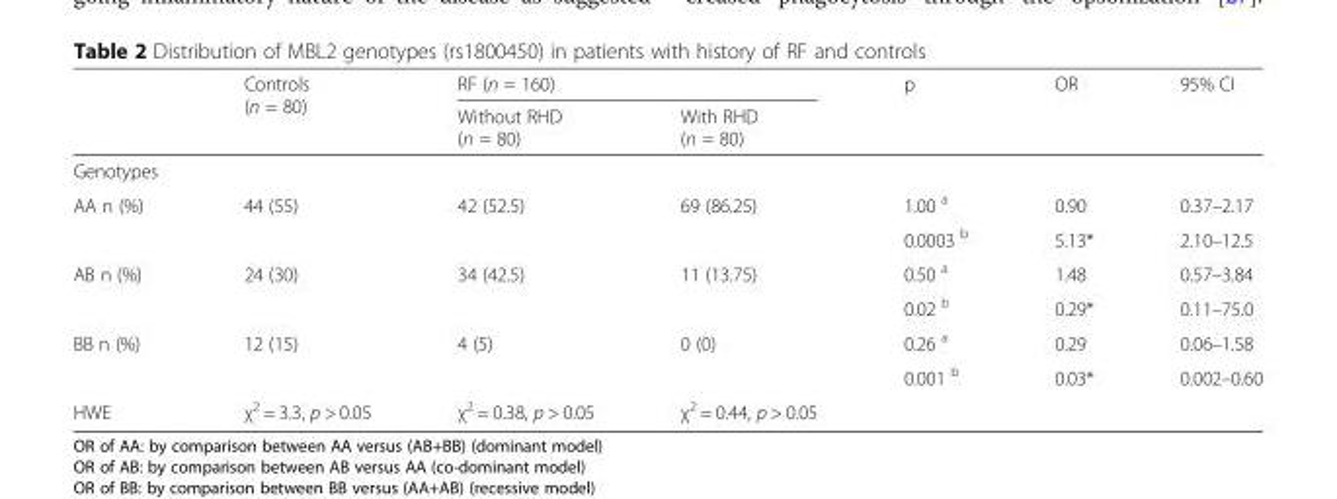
<table><thead><tr><td rowspan="2"></td><td rowspan="2">Controls (n = 80)</td><td colspan="2">RF (n = 160)</td><td rowspan="2">p</td><td rowspan="2">OR</td><td rowspan="2">95% CI</td></tr><tr><td>Without RHD (n = 80)</td><td>With RHD (n = 80)</td></tr></thead><tbody><tr><td colspan="7">Genotypes</td></tr><tr><td rowspan="2">AA n (%)</td><td rowspan="2">44 (55)</td><td rowspan="2">42 (52.5)</td><td rowspan="2">69 (86.25)</td><td>1.00 <sup>a</sup></td><td>0.90</td><td>0.37–2.17</td></tr><tr><td>0.0003 <sup>b</sup></td><td>5.13*</td><td>2.10–12.5</td></tr><tr><td rowspan="2">AB n (%)</td><td rowspan="2">24 (30)</td><td rowspan="2">34 (42.5)</td><td rowspan="2">11 (13.75)</td><td>0.50 <sup>a</sup></td><td>1.48</td><td>0.57–3.84</td></tr><tr><td>0.02 <sup>b</sup></td><td>0.29*</td><td>0.11–75.0</td></tr><tr><td rowspan="2">BB n (%)</td><td rowspan="2">12 (15)</td><td rowspan="2">4 (5)</td><td rowspan="2">0 (0)</td><td>0.26 <sup>a</sup></td><td>0.29</td><td>0.06–1.58</td></tr><tr><td>0.001 <sup>b</sup></td><td>0.03*</td><td>0.002–0.60</td></tr><tr><td>HWE</td><td>χ<sup>2</sup> = 3.3, p &gt; 0.05</td><td>χ<sup>2</sup> = 0.38, p &gt; 0.05</td><td>χ<sup>2</sup> = 0.44, p &gt; 0.05</td><td></td><td></td><td></td></tr></tbody></table>